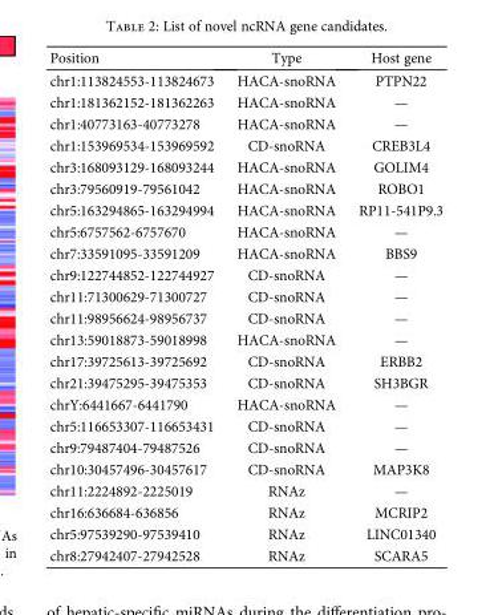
<table><thead><tr><td>Position</td><td>Type</td><td>Host gene</td></tr></thead><tbody><tr><td>chr1:113824553-113824673</td><td>HACA-snoRNA</td><td>PTPN22</td></tr><tr><td>chr1:181362152-181362263</td><td>HACA-snoRNA</td><td>—</td></tr><tr><td>chr1:40773163-40773278</td><td>HACA-snoRNA</td><td>—</td></tr><tr><td>chr1:153969534-153969592</td><td>CD-snoRNA</td><td>CREB3L4</td></tr><tr><td>chr3:168093129-168093244</td><td>HACA-snoRNA</td><td>GOLIM4</td></tr><tr><td>chr3:79560919-79561042</td><td>HACA-snoRNA</td><td>ROBO1</td></tr><tr><td>chr5:163294865-163294994</td><td>HACA-snoRNA</td><td>RP11-541P9.3</td></tr><tr><td>chr5:6757562-6757670</td><td>HACA-snoRNA</td><td>—</td></tr><tr><td>chr7:33591095-33591209</td><td>HACA-snoRNA</td><td>BBS9</td></tr><tr><td>chr9:122744852-122744927</td><td>CD-snoRNA</td><td>—</td></tr><tr><td>chr11:71300629-71300727</td><td>CD-snoRNA</td><td>—</td></tr><tr><td>chr11:98956624-98956737</td><td>CD-snoRNA</td><td>—</td></tr><tr><td>chr13:59018873-59018998</td><td>HACA-snoRNA</td><td>—</td></tr><tr><td>chr17:39725613-39725692</td><td>CD-snoRNA</td><td>ERBB2</td></tr><tr><td>chr21:39475295-39475353</td><td>CD-snoRNA</td><td>SH3BGR</td></tr><tr><td>chrY:6441667-6441790</td><td>HACA-snoRNA</td><td>—</td></tr><tr><td>chr5:116653307-116653431</td><td>CD-snoRNA</td><td>—</td></tr><tr><td>chr9:79487404-79487526</td><td>CD-snoRNA</td><td>—</td></tr><tr><td>chr10:30457496-30457617</td><td>CD-snoRNA</td><td>MAP3K8</td></tr><tr><td>chr11:2224892-2225019</td><td>RNAz</td><td>—</td></tr><tr><td>chr16:636684-636856</td><td>RNAz</td><td>MCRIP2</td></tr><tr><td>chr5:97539290-97539410</td><td>RNAz</td><td>LINC01340</td></tr><tr><td>chr8:27942407-27942528</td><td>RNAz</td><td>SCARA5</td></tr></tbody></table>